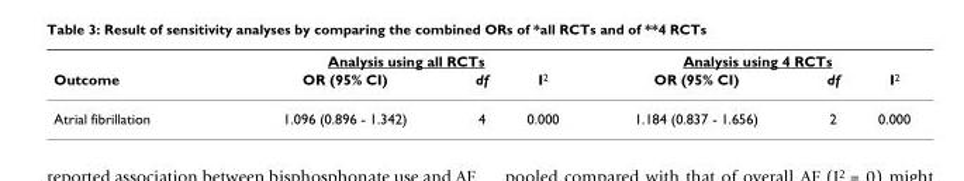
<table><thead><tr><td rowspan="2">Outcome</td><td colspan="3">Analysis using all RCTs</td><td colspan="3">Analysis using 4 RCTs</td></tr><tr><td>OR (95% CI)</td><td>df</td><td>I<sup>2</sup></td><td>OR (95% CI)</td><td>df</td><td>I<sup>2</sup></td></tr></thead><tbody><tr><td>Atrial fibrillation</td><td>1.096 (0.896 - 1.342)</td><td>4</td><td>0.000</td><td>1.184 (0.837 - 1.656)</td><td>2</td><td>0.000</td></tr></tbody></table>